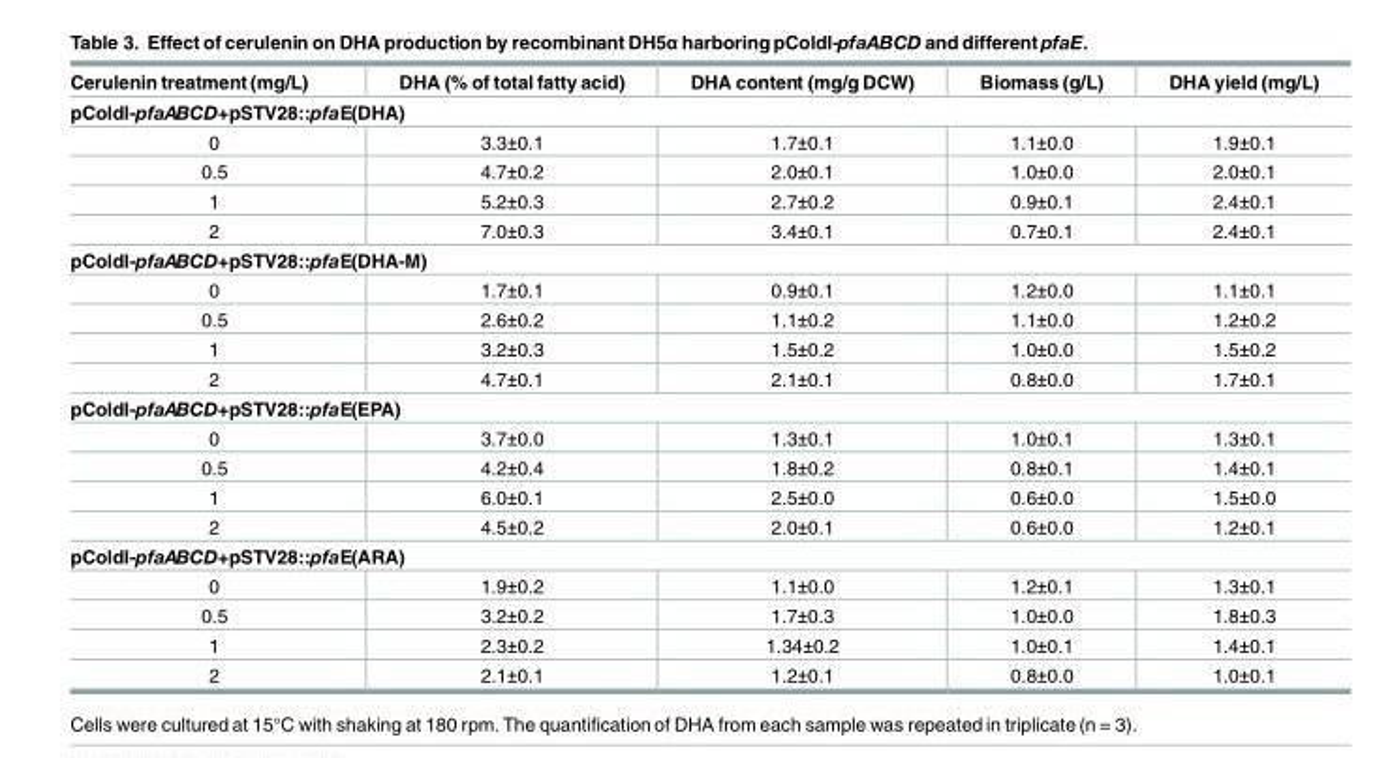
<table><thead><tr><td>Cerulenin treatment (mg/L)</td><td>DHA (% of total fatty acid)</td><td>DHA content (mg/g DCW)</td><td>Biomass (g/L)</td><td>DHA yield (mg/L)</td></tr></thead><tbody><tr><td colspan="5">pColdI-pfaABCD+pSTV28::pfaE(DHA)</td></tr><tr><td>0</td><td>3.3±0.1</td><td>1.7±0.1</td><td>1.1±0.0</td><td>1.9±0.1</td></tr><tr><td>0.5</td><td>4.7±0.2</td><td>2.0±0.1</td><td>1.0±0.0</td><td>2.0±0.1</td></tr><tr><td>1</td><td>5.2±0.3</td><td>2.7±0.2</td><td>0.9±0.1</td><td>2.4±0.1</td></tr><tr><td>2</td><td>7.0±0.3</td><td>3.4±0.1</td><td>0.7±0.1</td><td>2.4±0.1</td></tr><tr><td colspan="5">pColdI-pfaABCD+pSTV28::pfaE(DHA-M)</td></tr><tr><td>0</td><td>1.7±0.1</td><td>0.9±0.1</td><td>1.2±0.0</td><td>1.1±0.1</td></tr><tr><td>0.5</td><td>2.6±0.2</td><td>1.1±0.2</td><td>1.1±0.0</td><td>1.2±0.2</td></tr><tr><td>1</td><td>3.2±0.3</td><td>1.5±0.2</td><td>1.0±0.0</td><td>1.5±0.2</td></tr><tr><td>2</td><td>4.7±0.1</td><td>2.1±0.1</td><td>0.8±0.0</td><td>1.7±0.1</td></tr><tr><td colspan="5">pColdI-pfaABCD+pSTV28::pfaE(EPA)</td></tr><tr><td>0</td><td>3.7±0.0</td><td>1.3±0.1</td><td>1.0±0.1</td><td>1.3±0.1</td></tr><tr><td>0.5</td><td>4.2±0.4</td><td>1.8±0.2</td><td>0.8±0.1</td><td>1.4±0.1</td></tr><tr><td>1</td><td>6.0±0.1</td><td>2.5±0.0</td><td>0.6±0.0</td><td>1.5±0.0</td></tr><tr><td>2</td><td>4.5±0.2</td><td>2.0±0.1</td><td>0.6±0.0</td><td>1.2±0.1</td></tr><tr><td colspan="5">pColdI-pfaABCD+pSTV28::pfaE(ARA)</td></tr><tr><td>0</td><td>1.9±0.2</td><td>1.1±0.0</td><td>1.2±0.1</td><td>1.3±0.1</td></tr><tr><td>0.5</td><td>3.2±0.2</td><td>1.7±0.3</td><td>1.0±0.0</td><td>1.8±0.3</td></tr><tr><td>1</td><td>2.3±0.2</td><td>1.34±0.2</td><td>1.0±0.1</td><td>1.4±0.1</td></tr><tr><td>2</td><td>2.1±0.1</td><td>1.2±0.1</td><td>0.8±0.0</td><td>1.0±0.1</td></tr></tbody></table>